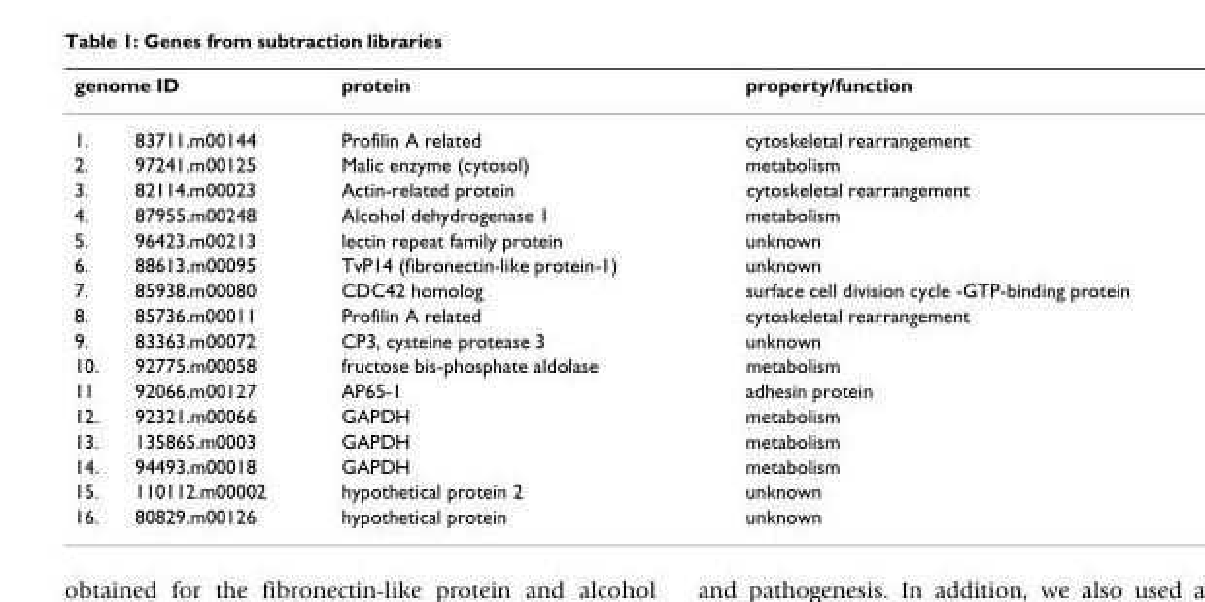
<table><thead><tr><td colspan="2">genome ID</td><td rowspan="2">protein Profilin A related</td><td rowspan="2">property/function cytoskeletal rearrangement</td></tr><tr><td>1.</td><td>83711.m00144</td></tr></thead><tbody><tr><td>2.</td><td>97241.m00125</td><td>Malic enzyme (cytosol)</td><td>metabolism</td></tr><tr><td>3.</td><td>82114.m00023</td><td>Actin-related protein</td><td>cytoskeletal rearrangement</td></tr><tr><td>4.</td><td>87955.m00248</td><td>Alcohol dehydrogenase 1</td><td>metabolism</td></tr><tr><td>5.</td><td>96423.m00213</td><td>lectin repeat family protein</td><td>unknown</td></tr><tr><td>6.</td><td>88613.m00095</td><td>TvP14 (fibronectin-like protein-1)</td><td>unknown</td></tr><tr><td>7.</td><td>85938.m00080</td><td>CDC42 homolog</td><td>surface cell division cycle -GTP-binding protein</td></tr><tr><td>8.</td><td>85736.m00011</td><td>Profilin A related</td><td>cytoskeletal rearrangement</td></tr><tr><td>9.</td><td>83363.m00072</td><td>CP3, cysteine protease 3</td><td>unknown</td></tr><tr><td>10.</td><td>92775.m00058</td><td>fructose bis-phosphate aldolase</td><td>metabolism</td></tr><tr><td>11</td><td>92066.m00127</td><td>AP65-1</td><td>adhesin protein</td></tr><tr><td>12.</td><td>92321.m00066</td><td>GAPDH</td><td>metabolism</td></tr><tr><td>13.</td><td>135865.m0003</td><td>GAPDH</td><td>metabolism</td></tr><tr><td>14.</td><td>94493.m00018</td><td>GAPDH</td><td>metabolism</td></tr><tr><td>15.</td><td>110112.m00002</td><td>hypothetical protein 2</td><td>unknown</td></tr><tr><td>16.</td><td>80829.m00126</td><td>hypothetical protein</td><td>unknown</td></tr></tbody></table>